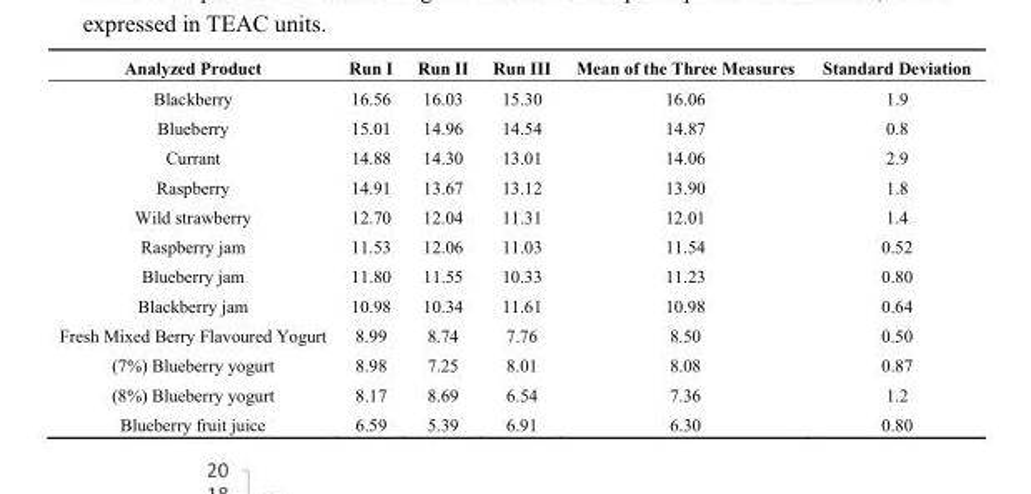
<table><thead><tr><td>Analyzed Product</td><td>Run I</td><td>Run II</td><td>Run III</td><td>Mean of the Three Measures</td><td>Standard Deviation</td></tr></thead><tbody><tr><td>Blackberry</td><td>16.56</td><td>16.03</td><td>15.30</td><td>16.06</td><td>1.9</td></tr><tr><td>Blueberry</td><td>15.01</td><td>14.96</td><td>14.54</td><td>14.87</td><td>0.8</td></tr><tr><td>Currant</td><td>14.88</td><td>14.30</td><td>13.01</td><td>14.06</td><td>2.9</td></tr><tr><td>Raspberry</td><td>14.91</td><td>13.67</td><td>13.12</td><td>13.90</td><td>1.8</td></tr><tr><td>Wild strawberry</td><td>12.70</td><td>12.04</td><td>11.31</td><td>12.01</td><td>1.4</td></tr><tr><td>Raspberry jam</td><td>11.53</td><td>12.06</td><td>11.03</td><td>11.54</td><td>0.52</td></tr><tr><td>Blueberry jam</td><td>11.80</td><td>11.55</td><td>10.33</td><td>11.23</td><td>0.80</td></tr><tr><td>Blackberry jam</td><td>10.98</td><td>10.34</td><td>11.61</td><td>10.98</td><td>0.64</td></tr><tr><td>Fresh Mixed Berry Flavoured Yogurt</td><td>8.99</td><td>8.74</td><td>7.76</td><td>8.50</td><td>0.50</td></tr><tr><td>(7%) Blueberry yogurt</td><td>8.98</td><td>7.25</td><td>8.01</td><td>8.08</td><td>0.87</td></tr><tr><td>(8%) Blueberry yogurt</td><td>8.17</td><td>8.69</td><td>6.54</td><td>7.36</td><td>1.2</td></tr><tr><td>Blueberry fruit juice</td><td>6.59</td><td>5.39</td><td>6.91</td><td>6.30</td><td>0.80</td></tr></tbody></table>